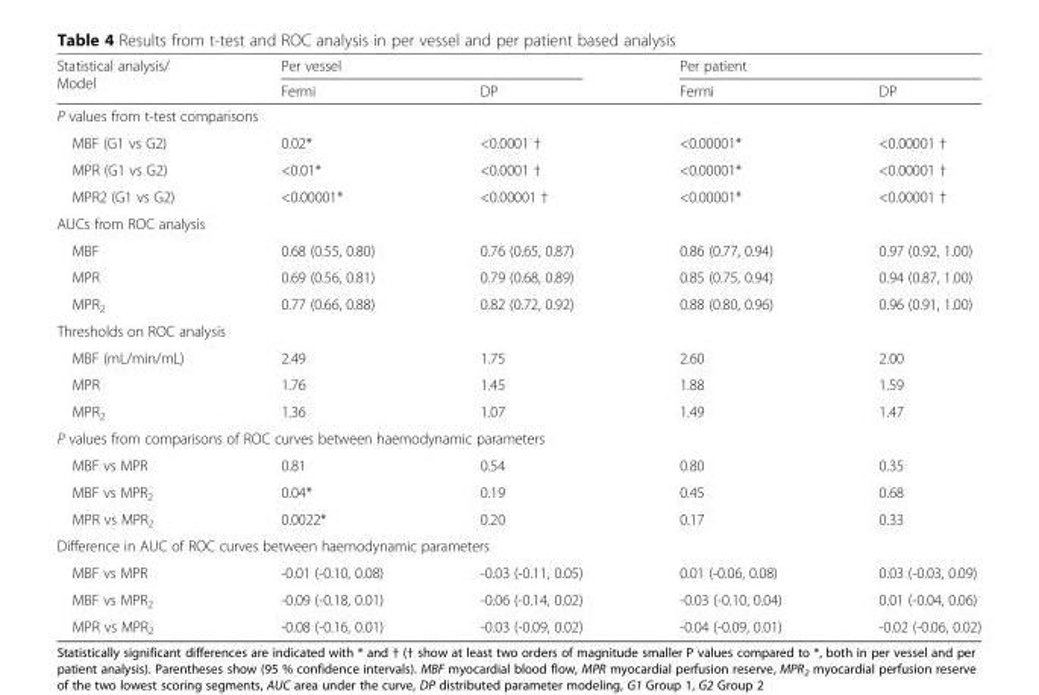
<table><thead><tr><td rowspan="2">Statistical analysis/ Model</td><td colspan="2">Per vessel</td><td colspan="2">Per patient</td></tr><tr><td>Fermi</td><td>DP</td><td>Fermi</td><td>DP</td></tr></thead><tbody><tr><td colspan="5">P values from t-test comparisons</td></tr><tr><td>MBF (G1 vs G2)</td><td>0.02*</td><td>&lt;0.0001 †</td><td>&lt;0.00001*</td><td>&lt;0.00001 †</td></tr><tr><td>MPR (G1 vs G2)</td><td>&lt;0.01*</td><td>&lt;0.0001 †</td><td>&lt;0.00001*</td><td>&lt;0.00001 †</td></tr><tr><td>MPR2 (G1 vs G2)</td><td>&lt;0.00001*</td><td>&lt;0.00001 †</td><td>&lt;0.00001*</td><td>&lt;0.00001 †</td></tr><tr><td colspan="5">AUCs from ROC analysis</td></tr><tr><td>MBF</td><td>0.68 (0.55, 0.80)</td><td>0.76 (0.65, 0.87)</td><td>0.86 (0.77, 0.94)</td><td>0.97 (0.92, 1.00)</td></tr><tr><td>MPR</td><td>0.69 (0.56, 0.81)</td><td>0.79 (0.68, 0.89)</td><td>0.85 (0.75, 0.94)</td><td>0.94 (0.87, 1.00)</td></tr><tr><td>MPR<sub>2</sub></td><td>0.77 (0.66, 0.88)</td><td>0.82 (0.72, 0.92)</td><td>0.88 (0.80, 0.96)</td><td>0.96 (0.91, 1.00)</td></tr><tr><td colspan="5">Thresholds on ROC analysis</td></tr><tr><td>MBF (mL/min/mL)</td><td>2.49</td><td>1.75</td><td>2.60</td><td>2.00</td></tr><tr><td>MPR</td><td>1.76</td><td>1.45</td><td>1.88</td><td>1.59</td></tr><tr><td>MPR<sub>2</sub></td><td>1.36</td><td>1.07</td><td>1.49</td><td>1.47</td></tr><tr><td colspan="5">P values from comparisons of ROC curves between haemodynamic parameters</td></tr><tr><td>MBF vs MPR</td><td>0.81</td><td>0.54</td><td>0.80</td><td>0.35</td></tr><tr><td>MBF vs MPR<sub>2</sub></td><td>0.04*</td><td>0.19</td><td>0.45</td><td>0.68</td></tr><tr><td>MPR vs MPR<sub>2</sub></td><td>0.0022*</td><td>0.20</td><td>0.17</td><td>0.33</td></tr><tr><td colspan="5">Difference in AUC of ROC curves between haemodynamic parameters</td></tr><tr><td>MBF vs MPR</td><td>-0.01 (-0.10, 0.08)</td><td>-0.03 (-0.11, 0.05)</td><td>0.01 (-0.06, 0.08)</td><td>0.03 (-0.03, 0.09)</td></tr><tr><td>MBF vs MPR<sub>2</sub></td><td>-0.09 (-0.18, 0.01)</td><td>-0.06 (-0.14, 0.02)</td><td>-0.03 (-0.10, 0.04)</td><td>0.01 (-0.04, 0.06)</td></tr><tr><td>MPR vs MPR<sub>2</sub></td><td>-0.08 (-0.16, 0.01)</td><td>-0.03 (-0.09, 0.02)</td><td>-0.04 (-0.09, 0.01)</td><td>-0.02 (-0.06, 0.02)</td></tr></tbody></table>